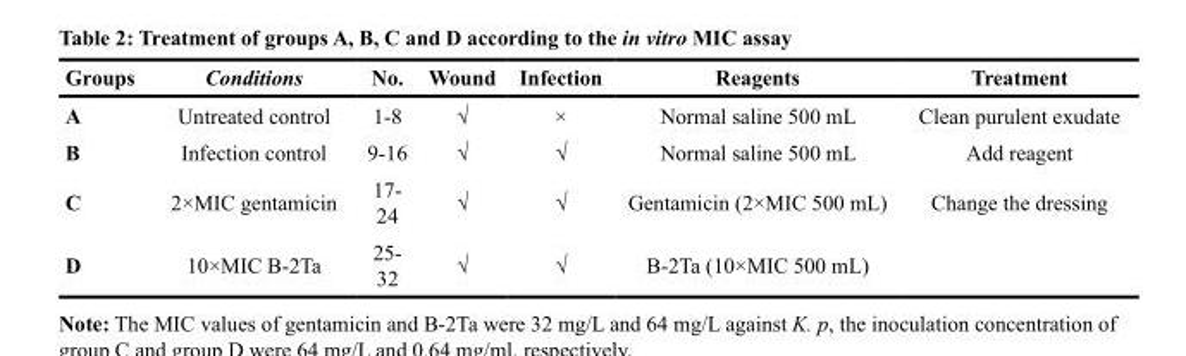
<table><thead><tr><td>Groups</td><td>Conditions</td><td>No.</td><td>Wound</td><td>Infection</td><td>Reagents</td><td>Treatment</td></tr></thead><tbody><tr><td>A</td><td>Untreated control</td><td>1-8</td><td>√</td><td>×</td><td>Normal saline 500 mL</td><td>Clean purulent exudate</td></tr><tr><td>B</td><td>Infection control</td><td>9-16</td><td>√</td><td>√</td><td>Normal saline 500 mL</td><td>Add reagent</td></tr><tr><td>C</td><td>2×MIC gentamicin</td><td>17- 24</td><td>√</td><td>√</td><td>Gentamicin (2×MIC 500 mL)</td><td>Change the dressing</td></tr><tr><td>D</td><td>10×MIC B-2Ta</td><td>25- 32</td><td>√</td><td>√</td><td>B-2Ta (10×MIC 500 mL)</td><td></td></tr></tbody></table>